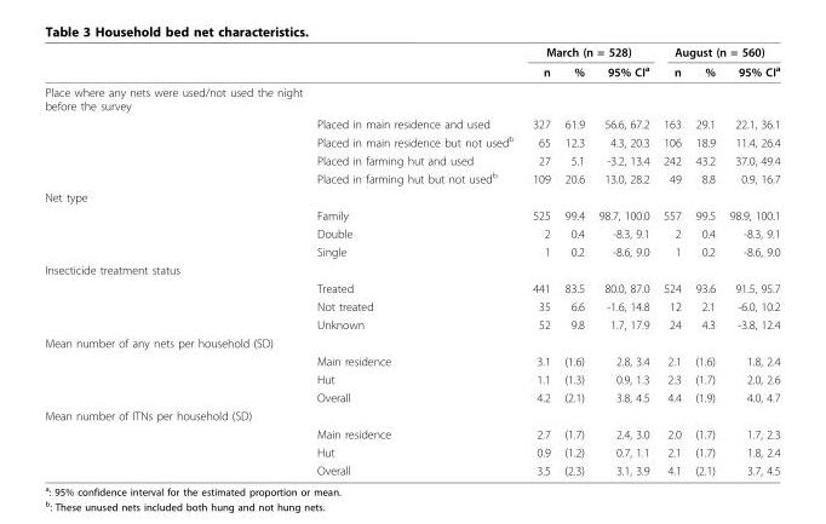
<table><thead><tr><td rowspan="2"></td><td rowspan="2"></td><td colspan="3">March (n = 528)</td><td colspan="3">August (n = 560)</td></tr><tr><td>n</td><td>%</td><td>95% CI<sup>a</sup></td><td>n</td><td>%</td><td>95% CI<sup>a</sup></td></tr></thead><tbody><tr><td colspan="8">Place where any nets were used/not used the night before the survey</td></tr><tr><td></td><td>Placed in main residence and used</td><td>327</td><td>61.9</td><td>56.6, 67.2</td><td>163</td><td>29.1</td><td>22.1, 36.1</td></tr><tr><td></td><td>Placed in main residence but not used<sup>b</sup></td><td>65</td><td>12.3</td><td>4.3, 20.3</td><td>106</td><td>18.9</td><td>11.4, 26.4</td></tr><tr><td></td><td>Placed in farming hut and used</td><td>27</td><td>5.1</td><td>-3.2, 13.4</td><td>242</td><td>43.2</td><td>37.0, 49.4</td></tr><tr><td></td><td>Placed in farming hut but not used<sup>b</sup></td><td>109</td><td>20.6</td><td>13.0, 28.2</td><td>49</td><td>8.8</td><td>0.9, 16.7</td></tr><tr><td colspan="8">Net type</td></tr><tr><td></td><td>Family</td><td>525</td><td>99.4</td><td>98.7, 100.0</td><td>557</td><td>99.5</td><td>98.9, 100.1</td></tr><tr><td></td><td>Double</td><td>2</td><td>0.4</td><td>-8.3, 9.1</td><td>2</td><td>0.4</td><td>-8.3, 9.1</td></tr><tr><td></td><td>Single</td><td>1</td><td>0.2</td><td>-8.6, 9.0</td><td>1</td><td>0.2</td><td>-8.6, 9.0</td></tr><tr><td colspan="8">Insecticide treatment status</td></tr><tr><td></td><td>Treated</td><td>441</td><td>83.5</td><td>80.0, 87.0</td><td>524</td><td>93.6</td><td>91.5, 95.7</td></tr><tr><td></td><td>Not treated</td><td>35</td><td>6.6</td><td>-1.6, 14.8</td><td>12</td><td>2.1</td><td>-6.0, 10.2</td></tr><tr><td></td><td>Unknown</td><td>52</td><td>9.8</td><td>1.7, 17.9</td><td>24</td><td>4.3</td><td>-3.8, 12.4</td></tr><tr><td colspan="8">Mean number of any nets per household (SD)</td></tr><tr><td></td><td>Main residence</td><td>3.1</td><td>(1.6)</td><td>2.8, 3.4</td><td>2.1</td><td>(1.6)</td><td>1.8, 2.4</td></tr><tr><td></td><td>Hut</td><td>1.1</td><td>(1.3)</td><td>0.9, 1.3</td><td>2.3</td><td>(1.7)</td><td>2.0, 2.6</td></tr><tr><td></td><td>Overall</td><td>4.2</td><td>(2.1)</td><td>3.8, 4.5</td><td>4.4</td><td>(1.9)</td><td>4.0, 4.7</td></tr><tr><td colspan="8">Mean number of ITNs per household (SD)</td></tr><tr><td></td><td>Main residence</td><td>2.7</td><td>(1.7)</td><td>2.4, 3.0</td><td>2.0</td><td>(1.7)</td><td>1.7, 2.3</td></tr><tr><td></td><td>Hut</td><td>0.9</td><td>(1.2)</td><td>0.7, 1.1</td><td>2.1</td><td>(1.7)</td><td>1.8, 2.4</td></tr><tr><td></td><td>Overall</td><td>3.5</td><td>(2.3)</td><td>3.1, 3.9</td><td>4.1</td><td>(2.1)</td><td>3.7, 4.5</td></tr></tbody></table>